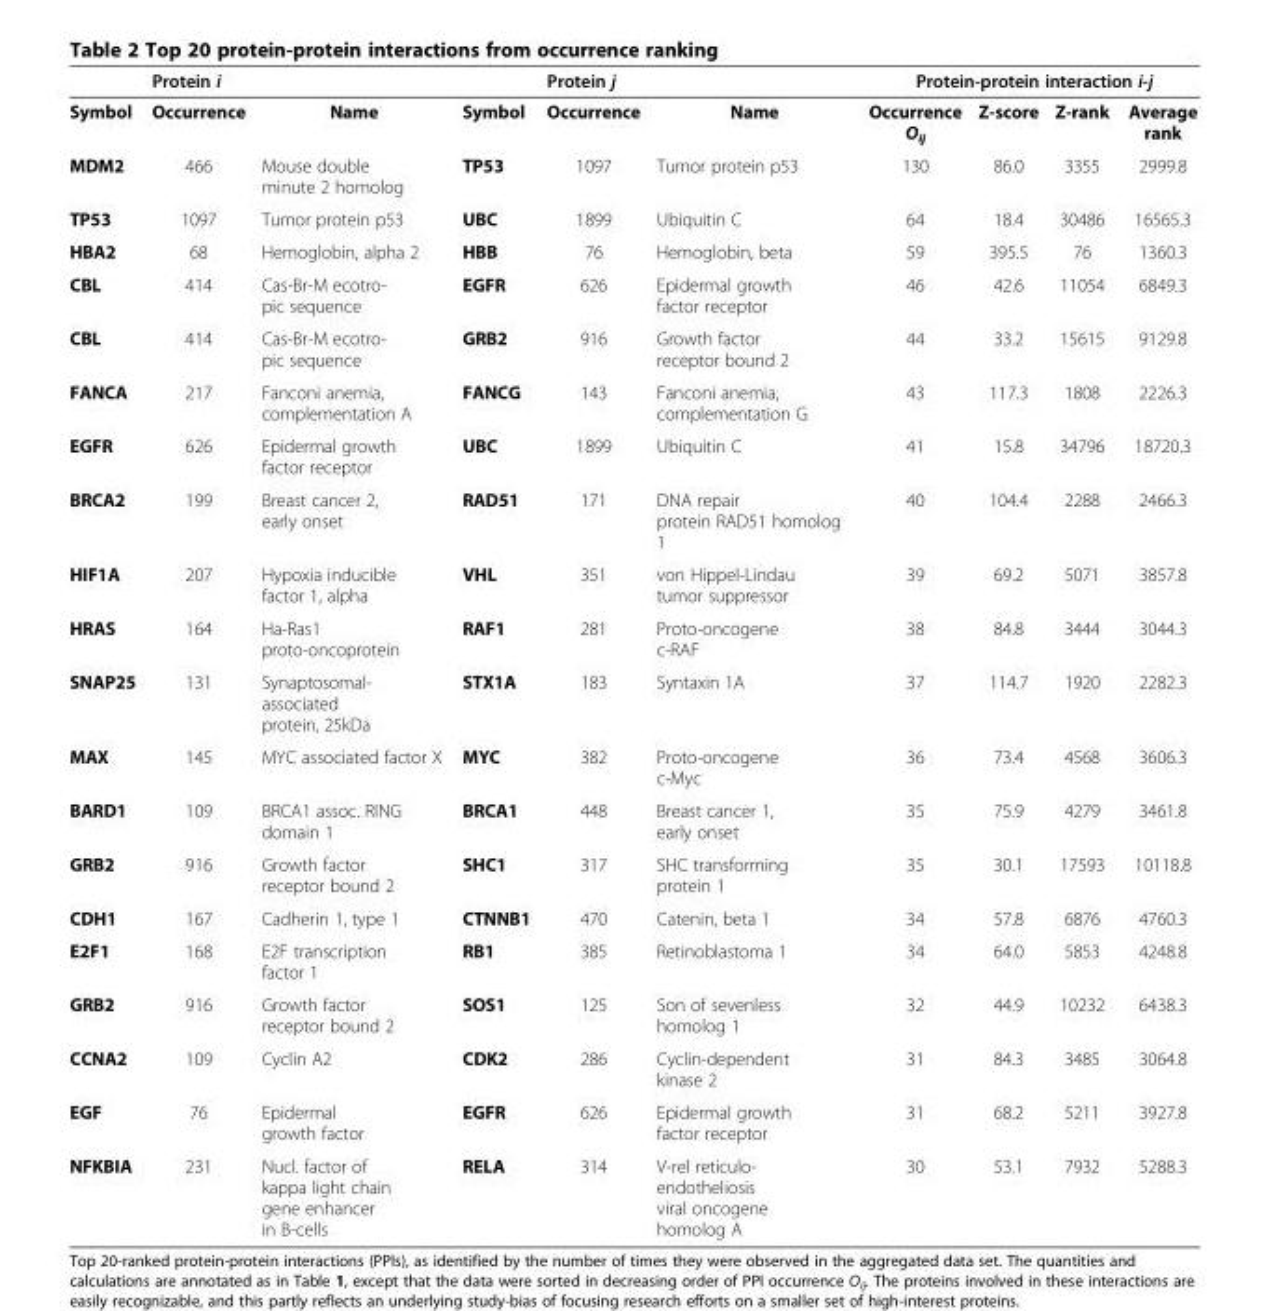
<table><thead><tr><td rowspan="2">Symbol</td><td rowspan="2">Protein i Occurrence</td><td rowspan="2">Name</td><td rowspan="2">Symbol</td><td rowspan="2">Protein j Occurrence</td><td rowspan="2">Name</td><td colspan="4">Protein-protein interaction i-j</td></tr><tr><td>Occurrence O<sub>ij</sub></td><td>Z-score</td><td>Z-rank</td><td>Average rank</td></tr></thead><tbody><tr><td>MDM2</td><td>466</td><td>Mouse double minute 2 homolog</td><td>TP53</td><td>1097</td><td>Tumor protein p53</td><td>130</td><td>86.0</td><td>3355</td><td>2999.8</td></tr><tr><td>TP53</td><td>1097</td><td>Tumor protein p53</td><td>UBC</td><td>1899</td><td>Ubiquitin C</td><td>64</td><td>18.4</td><td>30486</td><td>16565.3</td></tr><tr><td>HBA2</td><td>68</td><td>Hemoglobin, alpha 2</td><td>HBB</td><td>76</td><td>Hemoglobin, beta</td><td>59</td><td>395.5</td><td>76</td><td>1360.3</td></tr><tr><td>CBL</td><td>414</td><td>Cas-Br-M ecotro- pic sequence</td><td>EGFR</td><td>626</td><td>Epidermal growth factor receptor</td><td>46</td><td>42.6</td><td>11054</td><td>6849.3</td></tr><tr><td>CBL</td><td>414</td><td>Cas-Br-M ecotro- pic sequence</td><td>GRB2</td><td>916</td><td>Growth factor receptor bound 2</td><td>44</td><td>33.2</td><td>15615</td><td>9129.8</td></tr><tr><td>FANCA</td><td>217</td><td>Fanconi anemia, complementation A</td><td>FANCG</td><td>143</td><td>Fanconi anemia, complementation G</td><td>43</td><td>117.3</td><td>1808</td><td>2226.3</td></tr><tr><td>EGFR</td><td>626</td><td>Epidermal growth factor receptor</td><td>UBC</td><td>1899</td><td>Ubiquitin C</td><td>41</td><td>15.8</td><td>34796</td><td>18720.3</td></tr><tr><td>BRCA2</td><td>199</td><td>Breast cancer 2, early onset</td><td>RAD51</td><td>171</td><td>DNA repair protein RAD51 homolog 1</td><td>40</td><td>104.4</td><td>2288</td><td>2466.3</td></tr><tr><td>HIF1A</td><td>207</td><td>Hypoxia inducible factor 1, alpha</td><td>VHL</td><td>351</td><td>von Hippel-Lindau tumor suppressor</td><td>39</td><td>69.2</td><td>5071</td><td>3857.8</td></tr><tr><td>HRAS</td><td>164</td><td>Ha-Ras1 proto-oncoprotein</td><td>RAF1</td><td>281</td><td>Proto-oncogene c-RAF</td><td>38</td><td>84.8</td><td>3444</td><td>3044.3</td></tr><tr><td>SNAP25</td><td>131</td><td>Synaptosomal- associated protein, 25kDa</td><td>STX1A</td><td>183</td><td>Syntaxin 1A</td><td>37</td><td>114.7</td><td>1920</td><td>2282.3</td></tr><tr><td>MAX</td><td>145</td><td>MYC associated factor X</td><td>MYC</td><td>382</td><td>Proto-oncogene c-Myc</td><td>36</td><td>73.4</td><td>4568</td><td>3606.3</td></tr><tr><td>BARD1</td><td>109</td><td>BRCA1 assoc. RING domain 1</td><td>BRCA1</td><td>448</td><td>Breast cancer 1, early onset</td><td>35</td><td>75.9</td><td>4279</td><td>3461.8</td></tr><tr><td>GRB2</td><td>916</td><td>Growth factor receptor bound 2</td><td>SHC1</td><td>317</td><td>SHC transforming protein 1</td><td>35</td><td>30.1</td><td>17593</td><td>10118.8</td></tr><tr><td>CDH1</td><td>167</td><td>Cadherin 1, type 1</td><td>CTNNB1</td><td>470</td><td>Catenin, beta 1</td><td>34</td><td>57.8</td><td>6876</td><td>4760.3</td></tr><tr><td>E2F1</td><td>168</td><td>E2F transcription factor 1</td><td>RB1</td><td>385</td><td>Retinoblastoma 1</td><td>34</td><td>64.0</td><td>5853</td><td>4248.8</td></tr><tr><td>GRB2</td><td>916</td><td>Growth factor receptor bound 2</td><td>SOS1</td><td>125</td><td>Son of sevenless homolog 1</td><td>32</td><td>44.9</td><td>10232</td><td>6438.3</td></tr><tr><td>CCNA2</td><td>109</td><td>Cyclin A2</td><td>CDK2</td><td>286</td><td>Cyclin-dependent kinase 2</td><td>31</td><td>84.3</td><td>3485</td><td>3064.8</td></tr><tr><td>EGF</td><td>76</td><td>Epidermal growth factor</td><td>EGFR</td><td>626</td><td>Epidermal growth factor receptor</td><td>31</td><td>68.2</td><td>5211</td><td>3927.8</td></tr><tr><td>NFKBIA</td><td>231</td><td>Nucl. factor of kappa light chain gene enhancer in B-cells</td><td>RELA</td><td>314</td><td>V-rel reticulo- endotheliosis viral oncogene homolog A</td><td>30</td><td>53.1</td><td>7932</td><td>5288.3</td></tr></tbody></table>